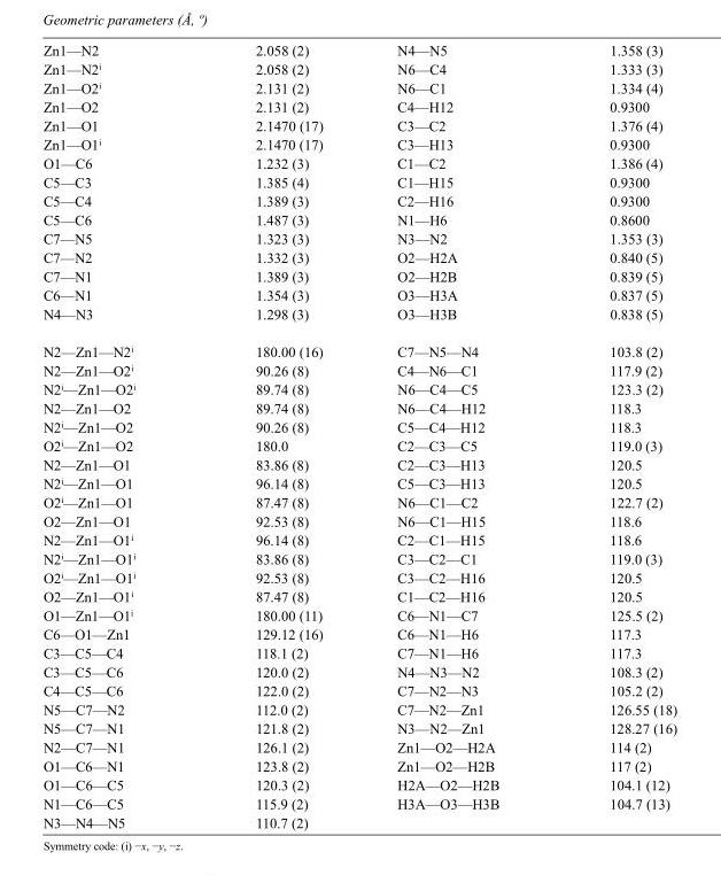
<table><tbody><tr><td>Zn1—N2</td><td>2.058 (2)</td><td>N4—N5</td><td>1.358 (3)</td></tr><tr><td>Zn1—N2<sup>i</sup></td><td>2.058 (2)</td><td>N6—C4</td><td>1.333 (3)</td></tr><tr><td>Zn1—O2<sup>i</sup></td><td>2.131 (2)</td><td>N6—C1</td><td>1.334 (4)</td></tr><tr><td>Zn1—O2</td><td>2.131 (2)</td><td>C4—H12</td><td>0.9300</td></tr><tr><td>Zn1—O1</td><td>2.1470 (17)</td><td>C3—C2</td><td>1.376 (4)</td></tr><tr><td>Zn1—O1<sup>i</sup></td><td>2.1470 (17)</td><td>C3—H13</td><td>0.9300</td></tr><tr><td>O1—C6</td><td>1.232 (3)</td><td>C1—C2</td><td>1.386 (4)</td></tr><tr><td>C5—C3</td><td>1.385 (4)</td><td>C1—H15</td><td>0.9300</td></tr><tr><td>C5—C4</td><td>1.389 (3)</td><td>C2—H16</td><td>0.9300</td></tr><tr><td>C5—C6</td><td>1.487 (3)</td><td>N1—H6</td><td>0.8600</td></tr><tr><td>C7—N5</td><td>1.323 (3)</td><td>N3—N2</td><td>1.353 (3)</td></tr><tr><td>C7—N2</td><td>1.332 (3)</td><td>O2—H2A</td><td>0.840 (5)</td></tr><tr><td>C7—N1</td><td>1.389 (3)</td><td>O2—H2B</td><td>0.839 (5)</td></tr><tr><td>C6—N1</td><td>1.354 (3)</td><td>O3—H3A</td><td>0.837 (5)</td></tr><tr><td>N4—N3</td><td>1.298 (3)</td><td>O3—H3B</td><td>0.838 (5)</td></tr><tr><td>N2—Zn1—N2<sup>i</sup></td><td>180.00 (16)</td><td>C7—N5—N4</td><td>103.8 (2)</td></tr><tr><td>N2—Zn1—O2<sup>i</sup></td><td>90.26 (8)</td><td>C4—N6—C1</td><td>117.9 (2)</td></tr><tr><td>N2<sup>i</sup>—Zn1—O2<sup>i</sup></td><td>89.74 (8)</td><td>N6—C4—C5</td><td>123.3 (2)</td></tr><tr><td>N2—Zn1—O2</td><td>89.74 (8)</td><td>N6—C4—H12</td><td>118.3</td></tr><tr><td>N2<sup>i</sup>—Zn1—O2</td><td>90.26 (8)</td><td>C5—C4—H12</td><td>118.3</td></tr><tr><td>O2<sup>i</sup>—Zn1—O2</td><td>180.0</td><td>C2—C3—C5</td><td>119.0 (3)</td></tr><tr><td>N2—Zn1—O1</td><td>83.86 (8)</td><td>C2—C3—H13</td><td>120.5</td></tr><tr><td>N2<sup>i</sup>—Zn1—O1</td><td>96.14 (8)</td><td>C5—C3—H13</td><td>120.5</td></tr><tr><td>O2<sup>i</sup>—Zn1—O1</td><td>87.47 (8)</td><td>N6—C1—C2</td><td>122.7 (2)</td></tr><tr><td>O2—Zn1—O1</td><td>92.53 (8)</td><td>N6—C1—H15</td><td>118.6</td></tr><tr><td>N2—Zn1—O1<sup>i</sup></td><td>96.14 (8)</td><td>C2—C1—H15</td><td>118.6</td></tr><tr><td>N2<sup>i</sup>—Zn1—O1<sup>i</sup></td><td>83.86 (8)</td><td>C3—C2—C1</td><td>119.0 (3)</td></tr><tr><td>O2<sup>i</sup>—Zn1—O1<sup>i</sup></td><td>92.53 (8)</td><td>C3—C2—H16</td><td>120.5</td></tr><tr><td>O2—Zn1—O1<sup>i</sup></td><td>87.47 (8)</td><td>C1—C2—H16</td><td>120.5</td></tr><tr><td>O1—Zn1—O1<sup>i</sup></td><td>180.00 (11)</td><td>C6—N1—C7</td><td>125.5 (2)</td></tr><tr><td>C6—O1—Zn1</td><td>129.12 (16)</td><td>C6—N1—H6</td><td>117.3</td></tr><tr><td>C3—C5—C4</td><td>118.1 (2)</td><td>C7—N1—H6</td><td>117.3</td></tr><tr><td>C3—C5—C6</td><td>120.0 (2)</td><td>N4—N3—N2</td><td>108.3 (2)</td></tr><tr><td>C4—C5—C6</td><td>122.0 (2)</td><td>C7—N2—N3</td><td>105.2 (2)</td></tr><tr><td>N5—C7—N2</td><td>112.0 (2)</td><td>C7—N2—Zn1</td><td>126.55 (18)</td></tr><tr><td>N5—C7—N1</td><td>121.8 (2)</td><td>N3—N2—Zn1</td><td>128.27 (16)</td></tr><tr><td>N2—C7—N1</td><td>126.1 (2)</td><td>Zn1—O2—H2A</td><td>114 (2)</td></tr><tr><td>O1—C6—N1</td><td>123.8 (2)</td><td>Zn1—O2—H2B</td><td>117 (2)</td></tr><tr><td>O1—C6—C5</td><td>120.3 (2)</td><td>H2A—O2—H2B</td><td>104.1 (12)</td></tr><tr><td>N1—C6—C5</td><td>115.9 (2)</td><td>H3A—O3—H3B</td><td>104.7 (13)</td></tr><tr><td>N3—N4—N5</td><td>110.7 (2)</td><td></td><td></td></tr></tbody></table>